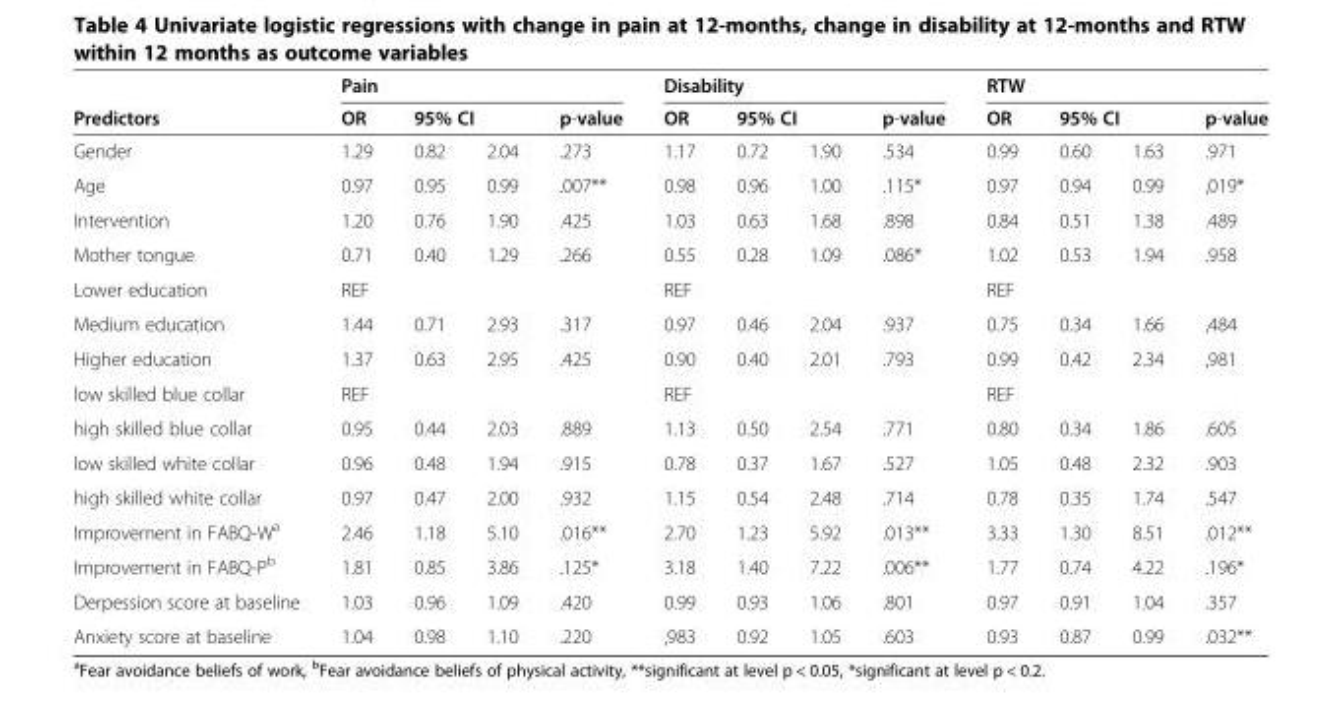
<table><thead><tr><td rowspan="3">Predictors Gender</td><td colspan="4">Pain</td><td colspan="4">Disability</td><td colspan="4">RTW</td></tr><tr><td rowspan="2">OR 1.29</td><td colspan="2">95% CI</td><td rowspan="2">p-value .273</td><td rowspan="2">OR 1.17</td><td colspan="2">95% CI</td><td rowspan="2">p-value .534</td><td rowspan="2">OR 0.99</td><td colspan="2">95% CI</td><td rowspan="2">p-value .971</td></tr><tr><td>0.82</td><td>2.04</td><td>0.72</td><td>1.90</td><td>0.60</td><td>1.63</td></tr></thead><tbody><tr><td>Age</td><td>0.97</td><td>0.95</td><td>0.99</td><td>.007**</td><td>0.98</td><td>0.96</td><td>1.00</td><td>.115*</td><td>0.97</td><td>0.94</td><td>0.99</td><td>,019*</td></tr><tr><td>Intervention</td><td>1.20</td><td>0.76</td><td>1.90</td><td>.425</td><td>1.03</td><td>0.63</td><td>1.68</td><td>.898</td><td>0.84</td><td>0.51</td><td>1.38</td><td>.489</td></tr><tr><td>Mother tongue</td><td>0.71</td><td>0.40</td><td>1.29</td><td>.266</td><td>0.55</td><td>0.28</td><td>1.09</td><td>.086*</td><td>1.02</td><td>0.53</td><td>1.94</td><td>.958</td></tr><tr><td>Lower education</td><td>REF</td><td></td><td></td><td></td><td>REF</td><td></td><td></td><td></td><td>REF</td><td></td><td></td><td></td></tr><tr><td>Medium education</td><td>1.44</td><td>0.71</td><td>2.93</td><td>.317</td><td>0.97</td><td>0.46</td><td>2.04</td><td>.937</td><td>0.75</td><td>0.34</td><td>1.66</td><td>,484</td></tr><tr><td>Higher education</td><td>1.37</td><td>0.63</td><td>2.95</td><td>.425</td><td>0.90</td><td>0.40</td><td>2.01</td><td>.793</td><td>0.99</td><td>0.42</td><td>2.34</td><td>,981</td></tr><tr><td>low skilled blue collar</td><td>REF</td><td></td><td></td><td></td><td>REF</td><td></td><td></td><td></td><td>REF</td><td></td><td></td><td></td></tr><tr><td>high skilled blue collar</td><td>0.95</td><td>0.44</td><td>2.03</td><td>.889</td><td>1.13</td><td>0.50</td><td>2.54</td><td>.771</td><td>0.80</td><td>0.34</td><td>1.86</td><td>.605</td></tr><tr><td>low skilled white collar</td><td>0.96</td><td>0.48</td><td>1.94</td><td>.915</td><td>0.78</td><td>0.37</td><td>1.67</td><td>.527</td><td>1.05</td><td>0.48</td><td>2.32</td><td>.903</td></tr><tr><td>high skilled white collar</td><td>0.97</td><td>0.47</td><td>2.00</td><td>.932</td><td>1.15</td><td>0.54</td><td>2.48</td><td>.714</td><td>0.78</td><td>0.35</td><td>1.74</td><td>.547</td></tr><tr><td>Improvement in FABQ-W<sup>a</sup></td><td>2.46</td><td>1.18</td><td>5.10</td><td>.016**</td><td>2.70</td><td>1.23</td><td>5.92</td><td>.013**</td><td>3.33</td><td>1.30</td><td>8.51</td><td>.012**</td></tr><tr><td>Improvement in FABQ-P<sup>b</sup></td><td>1.81</td><td>0.85</td><td>3.86</td><td>.125*</td><td>3.18</td><td>1.40</td><td>7.22</td><td>.006**</td><td>1.77</td><td>0.74</td><td>4.22</td><td>.196*</td></tr><tr><td>Derpession score at baseline</td><td>1.03</td><td>0.96</td><td>1.09</td><td>.420</td><td>0.99</td><td>0.93</td><td>1.06</td><td>.801</td><td>0.97</td><td>0.91</td><td>1.04</td><td>.357</td></tr><tr><td>Anxiety score at baseline</td><td>1.04</td><td>0.98</td><td>1.10</td><td>.220</td><td>,983</td><td>0.92</td><td>1.05</td><td>.603</td><td>0.93</td><td>0.87</td><td>0.99</td><td>.032**</td></tr></tbody></table>